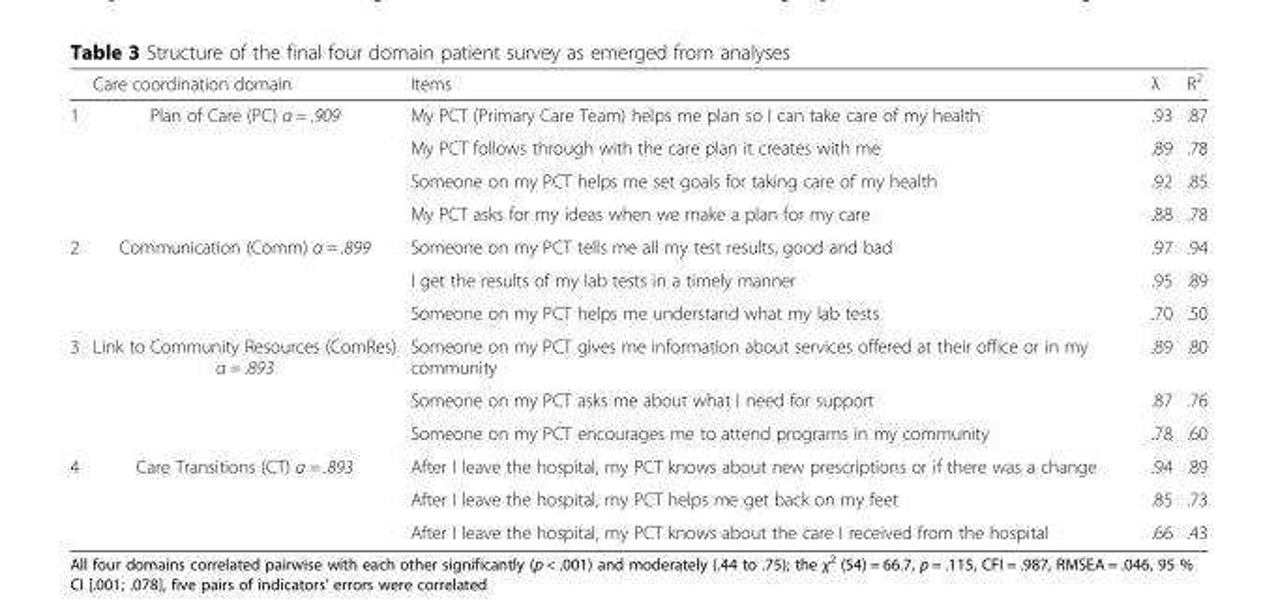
<table><thead><tr><td></td><td>Care coordination domain</td><td>Items</td><td>λ</td><td>R<sup>2</sup></td></tr></thead><tbody><tr><td rowspan="4">1</td><td rowspan="4">Plan of Care (PC) α = .909</td><td>My PCT (Primary Care Team) helps me plan so I can take care of my health</td><td>.93</td><td>.87</td></tr><tr><td>My PCT follows through with the care plan it creates with me</td><td>.89</td><td>.78</td></tr><tr><td>Someone on my PCT helps me set goals for taking care of my health</td><td>.92</td><td>.85</td></tr><tr><td>My PCT asks for my ideas when we make a plan for my care</td><td>.88</td><td>.78</td></tr><tr><td rowspan="3">2</td><td rowspan="3">Communication (Comm) α = .899</td><td>Someone on my PCT tells me all my test results, good and bad</td><td>.97</td><td>.94</td></tr><tr><td>I get the results of my lab tests in a timely manner</td><td>.95</td><td>.89</td></tr><tr><td>Someone on my PCT helps me understand what my lab tests</td><td>.70</td><td>.50</td></tr><tr><td rowspan="3">3</td><td rowspan="3">Link to Community Resources (ComRes) α = .893</td><td>Someone on my PCT gives me information about services offered at their office or in my community</td><td>.89</td><td>.80</td></tr><tr><td>Someone on my PCT asks me about what I need for support</td><td>.87</td><td>.76</td></tr><tr><td>Someone on my PCT encourages me to attend programs in my community</td><td>.78</td><td>.60</td></tr><tr><td rowspan="3">4</td><td rowspan="3">Care Transitions (CT) α = .893</td><td>After I leave the hospital, my PCT knows about new prescriptions or if there was a change</td><td>.94</td><td>.89</td></tr><tr><td>After I leave the hospital, my PCT helps me get back on my feet</td><td>.85</td><td>.73</td></tr><tr><td>After I leave the hospital, my PCT knows about the care I received from the hospital</td><td>.66</td><td>.43</td></tr></tbody></table>